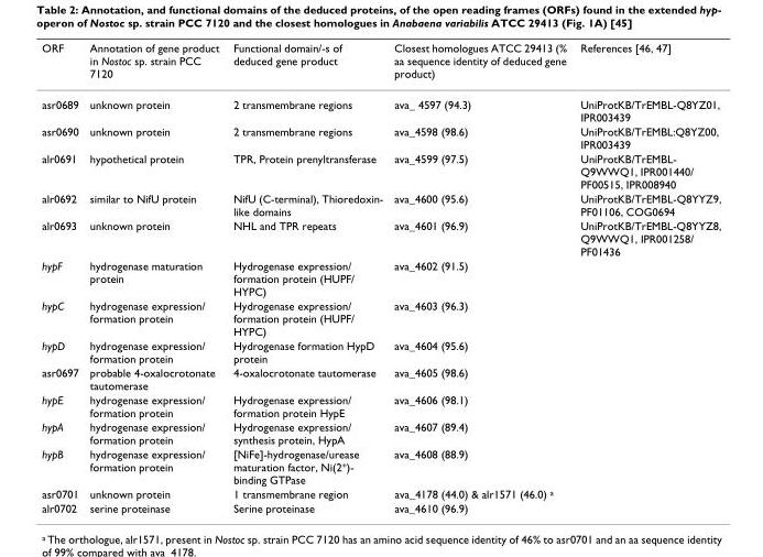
<table><thead><tr><td>ORF</td><td>Annotation of gene product in Nostoc sp. strain PCC 7120</td><td>Functional domain/-s of deduced gene product</td><td>Closest homologues ATCC 29413 (% aa sequence identity of deduced gene product)</td><td>References [46, 47]</td></tr></thead><tbody><tr><td>asr0689</td><td>unknown protein</td><td>2 transmembrane regions</td><td>ava_ 4597 (94.3)</td><td>UniProtKB/TrEMBL-Q8YZ01, IPR003439</td></tr><tr><td>asr0690</td><td>unknown protein</td><td>2 transmembrane regions</td><td>ava_4598 (98.6)</td><td>UniProtKB/TrEMBL:Q8YZ00, IPR003439</td></tr><tr><td>alr0691</td><td>hypothetical protein</td><td>TPR, Protein prenyltransferase</td><td>ava_4599 (97.5)</td><td>UniProtKB/TrEMBL- Q9WWQ1, IPR001440/ PF00515, IPR008940</td></tr><tr><td>alr0692</td><td>similar to NifU protein</td><td>NifU (C-terminal), Thioredoxin- like domains</td><td>ava_4600 (95.6)</td><td>UniProtKB/TrEMBL-Q8YYZ9, PF01106, COG0694</td></tr><tr><td>alr0693</td><td>unknown protein</td><td>NHL and TPR repeats</td><td>ava_4601 (96.9)</td><td>UniProtKB/TrEMBL-Q8YYZ8, Q9WWQ1, IPR001258/ PF01436</td></tr><tr><td>hypF</td><td>hydrogenase maturation protein</td><td>Hydrogenase expression/ formation protein (HUPF/ HYPC)</td><td>ava_4602 (91.5)</td><td></td></tr><tr><td>hypC</td><td>hydrogenase expression/ formation protein</td><td>Hydrogenase expression/ formation protein (HUPF/ HYPC)</td><td>ava_4603 (96.3)</td><td></td></tr><tr><td>hypD</td><td>hydrogenase expression/ formation protein</td><td>Hydrogenase formation HypD protein</td><td>ava_4604 (95.6)</td><td></td></tr><tr><td>asr0697</td><td>probable 4-oxalocrotonate tautomerase</td><td>4-oxalocrotonate tautomerase</td><td>ava_4605 (98.6)</td><td></td></tr><tr><td>hypE</td><td>hydrogenase expression/ formation protein</td><td>Hydrogenase expression/ formation protein HypE</td><td>ava_4606 (98.1)</td><td></td></tr><tr><td>hypA</td><td>hydrogenase expression/ formation protein</td><td>Hydrogenase expression/ synthesis protein, HypA</td><td>ava_4607 (89.4)</td><td></td></tr><tr><td>hypB</td><td>hydrogenase expression/ formation protein</td><td>[NiFe]-hydrogenase/urease maturation factor, Ni(2<sup>+</sup>)- binding GTPase</td><td>ava_4608 (88.9)</td><td></td></tr><tr><td>asr0701</td><td>unknown protein</td><td>1 transmembrane region</td><td>ava_4178 (44.0) &amp; alr1571 (46.0) <sup>a</sup></td><td></td></tr><tr><td>alr0702</td><td>serine proteinase</td><td>Serine proteinase</td><td>ava_4610 (96.9)</td><td></td></tr></tbody></table>